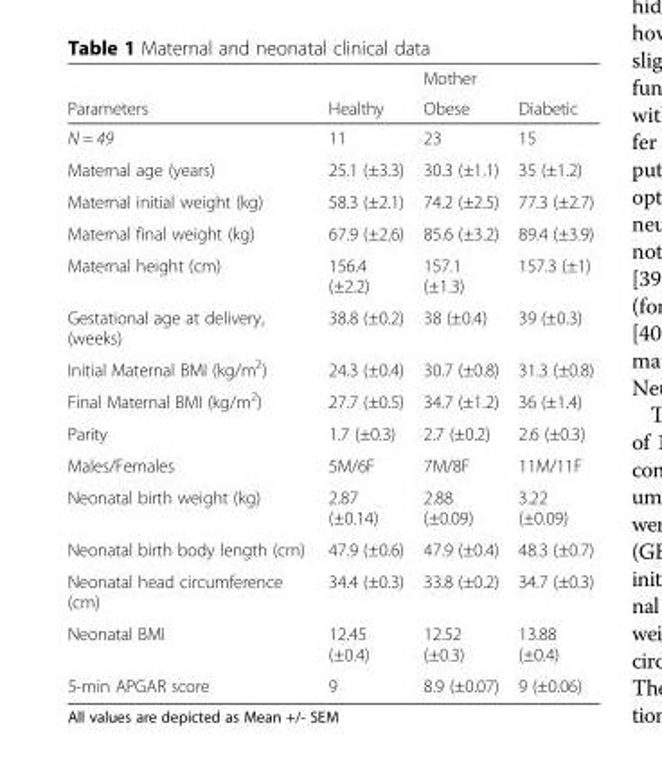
<table><thead><tr><td rowspan="2">Parameters</td><td rowspan="2">Healthy</td><td rowspan="2">Mother Obese</td><td rowspan="2">Diabetic</td></tr><tr></tr></thead><tbody><tr><td>N = 49</td><td>11</td><td>23</td><td>15</td></tr><tr><td>Maternal age (years)</td><td>25.1 (±3.3)</td><td>30.3 (±1.1)</td><td>35 (±1.2)</td></tr><tr><td>Maternal initial weight (kg)</td><td>58.3 (±2.1)</td><td>74.2 (±2.5)</td><td>77.3 (±2.7)</td></tr><tr><td>Maternal final weight (kg)</td><td>67.9 (±2.6)</td><td>85.6 (±3.2)</td><td>89.4 (±3.9)</td></tr><tr><td>Maternal height (cm)</td><td>156.4 (±2.2)</td><td>157.1 (±1.3)</td><td>157.3 (±1)</td></tr><tr><td>Gestational age at delivery, (weeks)</td><td>38.8 (±0.2)</td><td>38 (±0.4)</td><td>39 (±0.3)</td></tr><tr><td>Initial Maternal BMI (kg/m<sup>2</sup>)</td><td>24.3 (±0.4)</td><td>30.7 (±0.8)</td><td>31.3 (±0.8)</td></tr><tr><td>Final Maternal BMI (kg/m<sup>2</sup>)</td><td>27.7 (±0.5)</td><td>34.7 (±1.2)</td><td>36 (±1.4)</td></tr><tr><td>Parity</td><td>1.7 (±0.3)</td><td>2.7 (±0.2)</td><td>2.6 (±0.3)</td></tr><tr><td>Males/Females</td><td>5M/6F</td><td>7M/8F</td><td>11M/11F</td></tr><tr><td>Neonatal birth weight (kg)</td><td>2.87 (±0.14)</td><td>2.88 (±0.09)</td><td>3.22 (±0.09)</td></tr><tr><td>Neonatal birth body length (cm)</td><td>47.9 (±0.6)</td><td>47.9 (±0.4)</td><td>48.3 (±0.7)</td></tr><tr><td>Neonatal head circumference (cm)</td><td>34.4 (±0.3)</td><td>33.8 (±0.2)</td><td>34.7 (±0.3)</td></tr><tr><td>Neonatal BMI</td><td>12.45 (±0.4)</td><td>12.52 (±0.3)</td><td>13.88 (±0.4)</td></tr><tr><td>5-min APGAR score</td><td>9</td><td>8.9 (±0.07)</td><td>9 (±0.06)</td></tr></tbody></table>